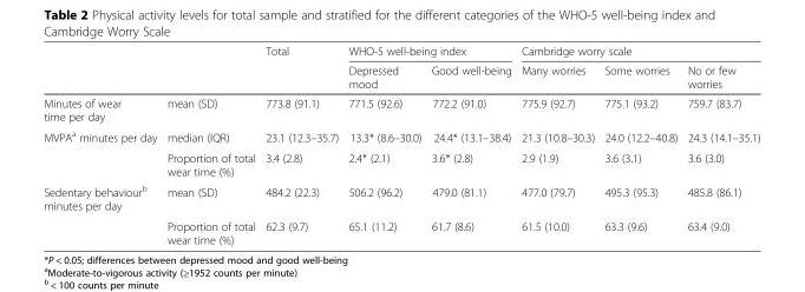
<table><thead><tr><td rowspan="2"></td><td rowspan="2"></td><td rowspan="2">Total</td><td colspan="2">WHO-5 well-being index</td><td colspan="3">Cambridge worry scale</td></tr><tr><td>Depressed mood</td><td>Good well-being</td><td>Many worries</td><td>Some worries</td><td>No or few worries</td></tr></thead><tbody><tr><td>Minutes of wear time per day</td><td>mean (SD)</td><td>773.8 (91.1)</td><td>771.5 (92.6)</td><td>772.2 (91.0)</td><td>775.9 (92.7)</td><td>775.1 (93.2)</td><td>759.7 (83.7)</td></tr><tr><td rowspan="2">MVPA<sup>a</sup> minutes per day</td><td>median (IQR)</td><td>23.1 (12.3–35.7)</td><td>13.3* (8.6–30.0)</td><td>24.4* (13.1–38.4)</td><td>21.3 (10.8–30.3)</td><td>24.0 (12.2–40.8)</td><td>24.3 (14.1–35.1)</td></tr><tr><td>Proportion of total wear time (%)</td><td>3.4 (2.8)</td><td>2.4* (2.1)</td><td>3.6* (2.8)</td><td>2.9 (1.9)</td><td>3.6 (3.1)</td><td>3.6 (3.0)</td></tr><tr><td rowspan="2">Sedentary behaviour<sup>b</sup> minutes per day</td><td>mean (SD)</td><td>484.2 (22.3)</td><td>506.2 (96.2)</td><td>479.0 (81.1)</td><td>477.0 (79.7)</td><td>495.3 (95.3)</td><td>485.8 (86.1)</td></tr><tr><td>Proportion of total wear time (%)</td><td>62.3 (9.7)</td><td>65.1 (11.2)</td><td>61.7 (8.6)</td><td>61.5 (10.0)</td><td>63.3 (9.6)</td><td>63.4 (9.0)</td></tr></tbody></table>